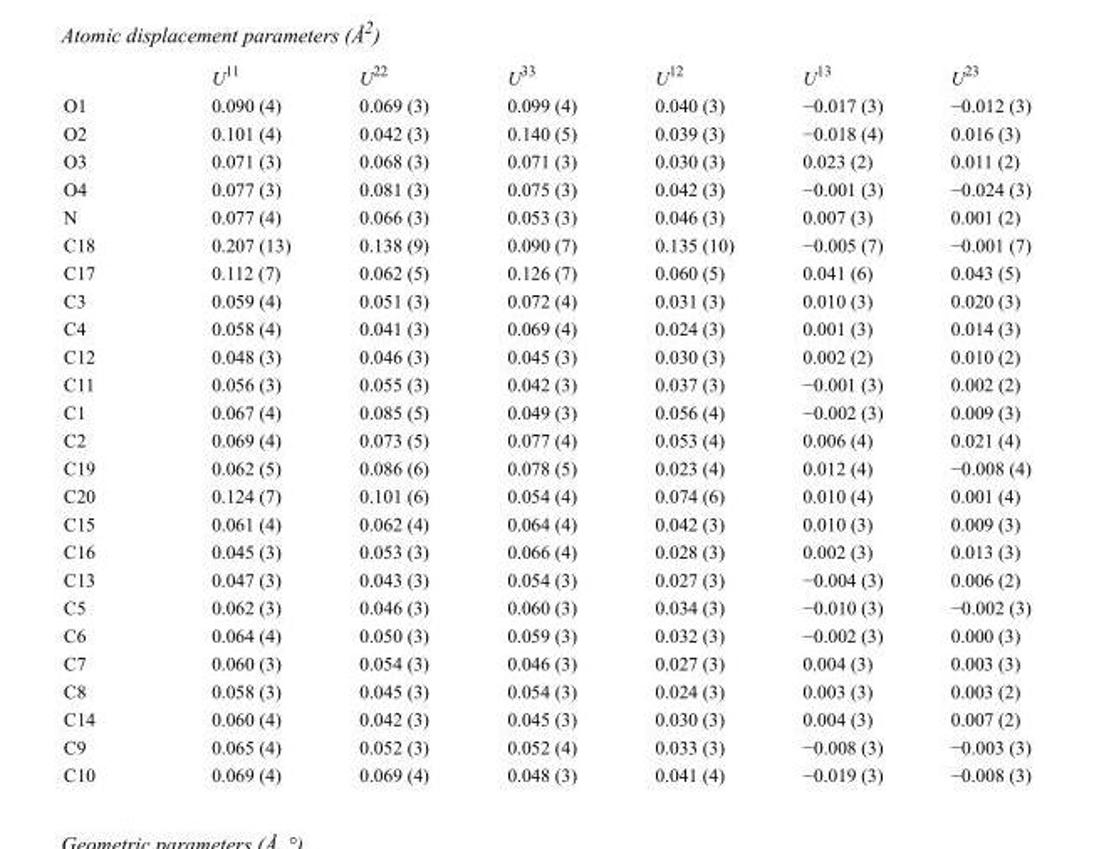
<table><thead><tr><td></td><td>U<sup>11</sup></td><td>U<sup>22</sup></td><td>U<sup>33</sup></td><td>U<sup>12</sup></td><td>U<sup>13</sup></td><td>U<sup>23</sup></td></tr></thead><tbody><tr><td>O1</td><td>0.090 (4)</td><td>0.069 (3)</td><td>0.099 (4)</td><td>0.040 (3)</td><td>−0.017 (3)</td><td>−0.012 (3)</td></tr><tr><td>O2</td><td>0.101 (4)</td><td>0.042 (3)</td><td>0.140 (5)</td><td>0.039 (3)</td><td>−0.018 (4)</td><td>0.016 (3)</td></tr><tr><td>O3</td><td>0.071 (3)</td><td>0.068 (3)</td><td>0.071 (3)</td><td>0.030 (3)</td><td>0.023 (2)</td><td>0.011 (2)</td></tr><tr><td>O4</td><td>0.077 (3)</td><td>0.081 (3)</td><td>0.075 (3)</td><td>0.042 (3)</td><td>−0.001 (3)</td><td>−0.024 (3)</td></tr><tr><td>N</td><td>0.077 (4)</td><td>0.066 (3)</td><td>0.053 (3)</td><td>0.046 (3)</td><td>0.007 (3)</td><td>0.001 (2)</td></tr><tr><td>C18</td><td>0.207 (13)</td><td>0.138 (9)</td><td>0.090 (7)</td><td>0.135 (10)</td><td>−0.005 (7)</td><td>−0.001 (7)</td></tr><tr><td>C17</td><td>0.112 (7)</td><td>0.062 (5)</td><td>0.126 (7)</td><td>0.060 (5)</td><td>0.041 (6)</td><td>0.043 (5)</td></tr><tr><td>C3</td><td>0.059 (4)</td><td>0.051 (3)</td><td>0.072 (4)</td><td>0.031 (3)</td><td>0.010 (3)</td><td>0.020 (3)</td></tr><tr><td>C4</td><td>0.058 (4)</td><td>0.041 (3)</td><td>0.069 (4)</td><td>0.024 (3)</td><td>0.001 (3)</td><td>0.014 (3)</td></tr><tr><td>C12</td><td>0.048 (3)</td><td>0.046 (3)</td><td>0.045 (3)</td><td>0.030 (3)</td><td>0.002 (2)</td><td>0.010 (2)</td></tr><tr><td>C11</td><td>0.056 (3)</td><td>0.055 (3)</td><td>0.042 (3)</td><td>0.037 (3)</td><td>−0.001 (3)</td><td>0.002 (2)</td></tr><tr><td>C1</td><td>0.067 (4)</td><td>0.085 (5)</td><td>0.049 (3)</td><td>0.056 (4)</td><td>−0.002 (3)</td><td>0.009 (3)</td></tr><tr><td>C2</td><td>0.069 (4)</td><td>0.073 (5)</td><td>0.077 (4)</td><td>0.053 (4)</td><td>0.006 (4)</td><td>0.021 (4)</td></tr><tr><td>C19</td><td>0.062 (5)</td><td>0.086 (6)</td><td>0.078 (5)</td><td>0.023 (4)</td><td>0.012 (4)</td><td>−0.008 (4)</td></tr><tr><td>C20</td><td>0.124 (7)</td><td>0.101 (6)</td><td>0.054 (4)</td><td>0.074 (6)</td><td>0.010 (4)</td><td>0.001 (4)</td></tr><tr><td>C15</td><td>0.061 (4)</td><td>0.062 (4)</td><td>0.064 (4)</td><td>0.042 (3)</td><td>0.010 (3)</td><td>0.009 (3)</td></tr><tr><td>C16</td><td>0.045 (3)</td><td>0.053 (3)</td><td>0.066 (4)</td><td>0.028 (3)</td><td>0.002 (3)</td><td>0.013 (3)</td></tr><tr><td>C13</td><td>0.047 (3)</td><td>0.043 (3)</td><td>0.054 (3)</td><td>0.027 (3)</td><td>−0.004 (3)</td><td>0.006 (2)</td></tr><tr><td>C5</td><td>0.062 (3)</td><td>0.046 (3)</td><td>0.060 (3)</td><td>0.034 (3)</td><td>−0.010 (3)</td><td>−0.002 (3)</td></tr><tr><td>C6</td><td>0.064 (4)</td><td>0.050 (3)</td><td>0.059 (3)</td><td>0.032 (3)</td><td>−0.002 (3)</td><td>0.000 (3)</td></tr><tr><td>C7</td><td>0.060 (3)</td><td>0.054 (3)</td><td>0.046 (3)</td><td>0.027 (3)</td><td>0.004 (3)</td><td>0.003 (3)</td></tr><tr><td>C8</td><td>0.058 (3)</td><td>0.045 (3)</td><td>0.054 (3)</td><td>0.024 (3)</td><td>0.003 (3)</td><td>0.003 (2)</td></tr><tr><td>C14</td><td>0.060 (4)</td><td>0.042 (3)</td><td>0.045 (3)</td><td>0.030 (3)</td><td>0.004 (3)</td><td>0.007 (2)</td></tr><tr><td>C9</td><td>0.065 (4)</td><td>0.052 (3)</td><td>0.052 (4)</td><td>0.033 (3)</td><td>−0.008 (3)</td><td>−0.003 (3)</td></tr><tr><td>C10</td><td>0.069 (4)</td><td>0.069 (4)</td><td>0.048 (3)</td><td>0.041 (4)</td><td>−0.019 (3)</td><td>−0.008 (3)</td></tr></tbody></table>